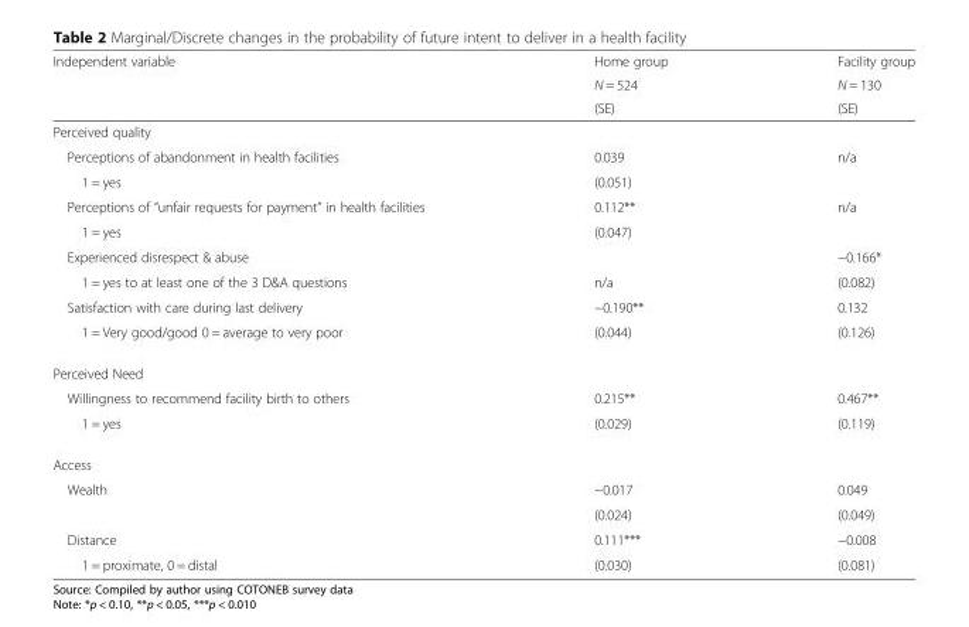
<table><thead><tr><td rowspan="3">Independent variable</td><td rowspan="3">Home group N = 524 (SE)</td><td rowspan="3">Facility group N = 130 (SE)</td></tr><tr></tr><tr></tr></thead><tbody><tr><td colspan="3">Perceived quality</td></tr><tr><td>Perceptions of abandonment in health facilities</td><td>0.039</td><td rowspan="2">n/a</td></tr><tr><td>1 = yes</td><td>(0.051)</td></tr><tr><td>Perceptions of “unfair requests for payment” in health facilities</td><td>0.112**</td><td rowspan="2">n/a</td></tr><tr><td>1 = yes</td><td>(0.047)</td></tr><tr><td>Experienced disrespect &amp; abuse</td><td></td><td>−0.166*</td></tr><tr><td>1 = yes to at least one of the 3 D&amp;A questions</td><td>n/a</td><td>(0.082)</td></tr><tr><td>Satisfaction with care during last delivery</td><td>−0.190**</td><td>0.132</td></tr><tr><td>1 = Very good/good 0 = average to very poor</td><td>(0.044)</td><td>(0.126)</td></tr><tr><td colspan="3">Perceived Need</td></tr><tr><td>Willingness to recommend facility birth to others</td><td>0.215**</td><td>0.467**</td></tr><tr><td>1 = yes</td><td>(0.029)</td><td>(0.119)</td></tr><tr><td colspan="3">Access</td></tr><tr><td rowspan="2">Wealth</td><td>−0.017</td><td>0.049</td></tr><tr><td>(0.024)</td><td>(0.049)</td></tr><tr><td>Distance</td><td>0.111***</td><td>−0.008</td></tr><tr><td>1 = proximate, 0 = distal</td><td>(0.030)</td><td>(0.081)</td></tr></tbody></table>